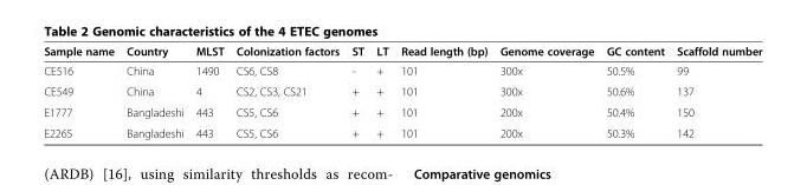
<table><thead><tr><td>Sample name</td><td>Country</td><td>MLST</td><td>Colonization factors</td><td>ST</td><td>LT</td><td>Read length (bp)</td><td>Genome coverage</td><td>GC content</td><td>Scaffold number</td></tr></thead><tbody><tr><td>CE516</td><td>China</td><td>1490</td><td>CS6, CS8</td><td>-</td><td>+</td><td>101</td><td>300x</td><td>50.5%</td><td>99</td></tr><tr><td>CE549</td><td>China</td><td>4</td><td>CS2, CS3, CS21</td><td>+</td><td>+</td><td>101</td><td>300x</td><td>50.6%</td><td>137</td></tr><tr><td>E1777</td><td>Bangladeshi</td><td>443</td><td>CS5, CS6</td><td>+</td><td>+</td><td>101</td><td>200x</td><td>50.4%</td><td>150</td></tr><tr><td>E2265</td><td>Bangladeshi</td><td>443</td><td>CS5, CS6</td><td>+</td><td>+</td><td>101</td><td>200x</td><td>50.3%</td><td>142</td></tr></tbody></table>